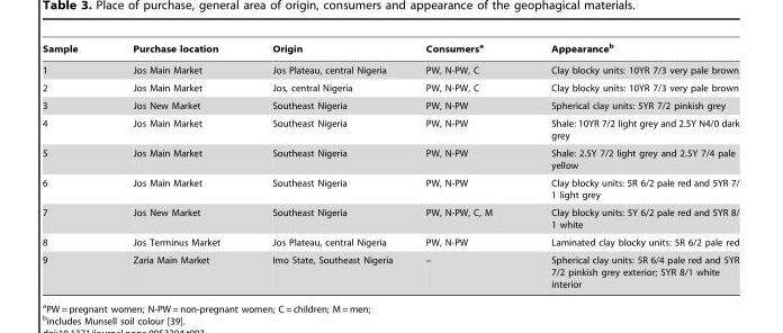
<table><thead><tr><td>Sample</td><td>Purchase location</td><td>Origin</td><td>Consumers<sup>a</sup></td><td>Appearance<sup>b</sup></td></tr></thead><tbody><tr><td>1</td><td>Jos Main Market</td><td>Jos Plateau, central Nigeria</td><td>PW, N-PW, C</td><td>Clay blocky units: 10YR 7/3 very pale brown</td></tr><tr><td>2</td><td>Jos Main Market</td><td>Jos, central Nigeria</td><td>PW, N-PW, C</td><td>Clay blocky units: 10YR 7/3 very pale brown</td></tr><tr><td>3</td><td>Jos New Market</td><td>Southeast Nigeria</td><td>PW, N-PW</td><td>Spherical clay units: 5YR 7/2 pinkish grey</td></tr><tr><td>4</td><td>Jos Main Market</td><td>Southeast Nigeria</td><td>PW, N-PW</td><td>Shale: 10YR 7/2 light grey and 2.5Y N4/0 dark grey</td></tr><tr><td>5</td><td>Jos Main Market</td><td>Southeast Nigeria</td><td>PW, N-PW</td><td>Shale: 2.5Y 7/2 light grey and 2.5Y 7/4 pale yellow</td></tr><tr><td>6</td><td>Jos Main Market</td><td>Southeast Nigeria</td><td>PW, N-PW</td><td>Clay blocky units: 5R 6/2 pale red and 5YR 7/ 1 light grey</td></tr><tr><td>7</td><td>Jos New Market</td><td>Southeast Nigeria</td><td>PW, N-PW, C, M</td><td>Clay blocky units: 5Y 6/2 pale red and 5YR 8/ 1 white</td></tr><tr><td>8</td><td>Jos Terminus Market</td><td>Jos Plateau, central Nigeria</td><td>PW, N-PW</td><td>Laminated clay blocky units: 5R 6/2 pale red</td></tr><tr><td>9</td><td>Zaria Main Market</td><td>Imo State, Southeast Nigeria</td><td>–</td><td>Spherical clay units: 5R 6/4 pale red and 5YR 7/2 pinkish grey exterior; 5YR 8/1 white interior</td></tr></tbody></table>